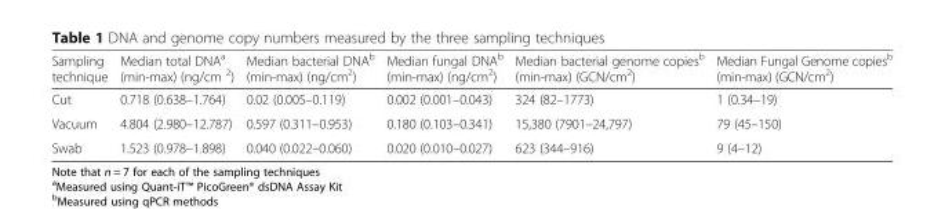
<table><thead><tr><td>Sampling technique</td><td>Median total DNA<sup>a</sup> (min-max) (ng/cm <sup>2</sup>)</td><td>Median bacterial DNA<sup>b</sup> (min-max) (ng/cm<sup>2</sup>)</td><td>Median fungal DNA<sup>b</sup> (min-max) (ng/cm<sup>2</sup>)</td><td>Median bacterial genome copies<sup>b</sup> (min-max) (GCN/cm<sup>2</sup>)</td><td>Median Fungal Genome copies<sup>b</sup> (min-max) (GCN/cm<sup>2</sup>)</td></tr></thead><tbody><tr><td>Cut</td><td>0.718 (0.638–1.764)</td><td>0.02 (0.005–0.119)</td><td>0.002 (0.001–0.043)</td><td>324 (82–1773)</td><td>1 (0.34–19)</td></tr><tr><td>Vacuum</td><td>4.804 (2.980–12.787)</td><td>0.597 (0.311–0.953)</td><td>0.180 (0.103–0.341)</td><td>15,380 (7901–24,797)</td><td>79 (45–150)</td></tr><tr><td>Swab</td><td>1.523 (0.978–1.898)</td><td>0.040 (0.022–0.060)</td><td>0.020 (0.010–0.027)</td><td>623 (344–916)</td><td>9 (4–12)</td></tr></tbody></table>